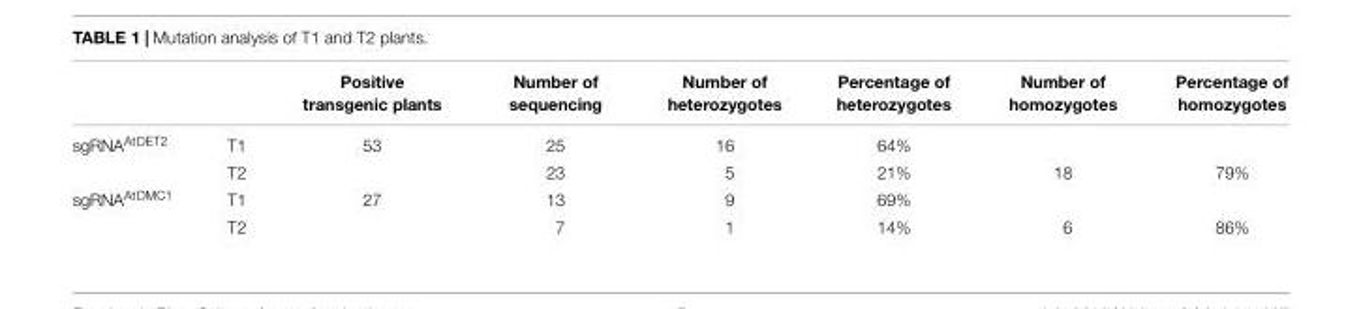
<table><thead><tr><td></td><td></td><td>Positive transgenic plants</td><td>Number of sequencing</td><td>Number of heterozygotes</td><td>Percentage of heterozygotes</td><td>Number of homozygotes</td><td>Percentage of homozygotes</td></tr></thead><tbody><tr><td rowspan="2">sgRNA<sup>AtDET2</sup></td><td>T1</td><td>53</td><td>25</td><td>16</td><td>64%</td><td></td><td></td></tr><tr><td>T2</td><td></td><td>23</td><td>5</td><td>21%</td><td>18</td><td>79%</td></tr><tr><td rowspan="2">sgRNA<sup>AtDMC1</sup></td><td>T1</td><td>27</td><td>13</td><td>9</td><td>69%</td><td></td><td></td></tr><tr><td>T2</td><td></td><td>7</td><td>1</td><td>14%</td><td>6</td><td>86%</td></tr></tbody></table>